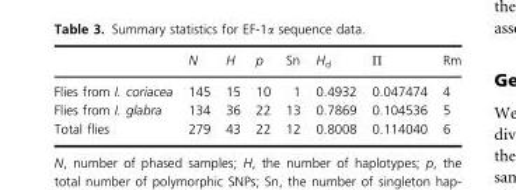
<table><thead><tr><td></td><td>N</td><td>H</td><td>p</td><td>Sn</td><td>H<sub>d</sub></td><td>Π</td><td>Rm</td></tr></thead><tbody><tr><td>Flies from I. coriacea</td><td>145</td><td>15</td><td>10</td><td>1</td><td>0.4932</td><td>0.047474</td><td>4</td></tr><tr><td>Flies from I. glabra</td><td>134</td><td>36</td><td>22</td><td>13</td><td>0.7869</td><td>0.104536</td><td>5</td></tr><tr><td>Total flies</td><td>279</td><td>43</td><td>22</td><td>12</td><td>0.8008</td><td>0.114040</td><td>6</td></tr></tbody></table>